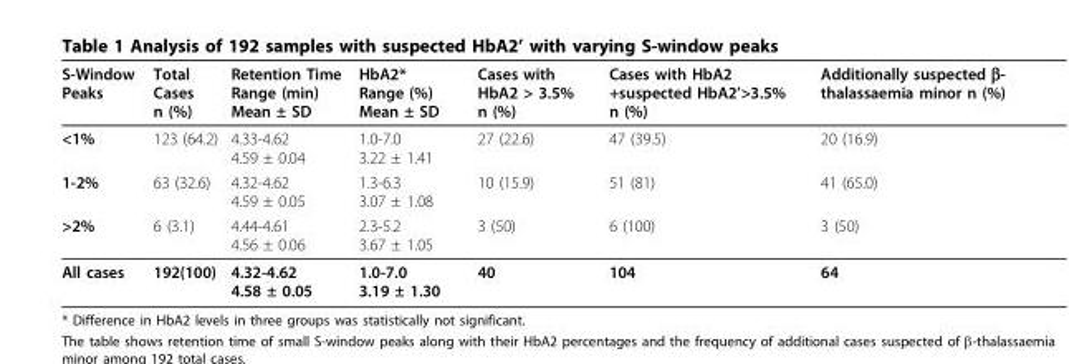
<table><thead><tr><td>S-Window Peaks</td><td>Total Cases n (%)</td><td>Retention Time Range (min) Mean ± SD</td><td>HbA2* Range (%) Mean ± SD</td><td>Cases with HbA2 &gt; 3.5% n (%)</td><td>Cases with HbA2 +suspected HbA2’&gt;3.5% n (%)</td><td>Additionally suspected β- thalassaemia minor n (%)</td></tr></thead><tbody><tr><td>&lt;1%</td><td>123 (64.2)</td><td>4.33-4.62 4.59 ± 0.04</td><td>1.0-7.0 3.22 ± 1.41</td><td>27 (22.6)</td><td>47 (39.5)</td><td>20 (16.9)</td></tr><tr><td>1-2%</td><td>63 (32.6)</td><td>4.32-4.62 4.59 ± 0.05</td><td>1.3-6.3 3.07 ± 1.08</td><td>10 (15.9)</td><td>51 (81)</td><td>41 (65.0)</td></tr><tr><td>&gt;2%</td><td>6 (3.1)</td><td>4.44-4.61 4.56 ± 0.06</td><td>2.3-5.2 3.67 ± 1.05</td><td>3 (50)</td><td>6 (100)</td><td>3 (50)</td></tr><tr><td>All cases</td><td>192(100)</td><td>4.32-4.62 4.58 ± 0.05</td><td>1.0-7.0 3.19 ± 1.30</td><td>40</td><td>104</td><td>64</td></tr></tbody></table>